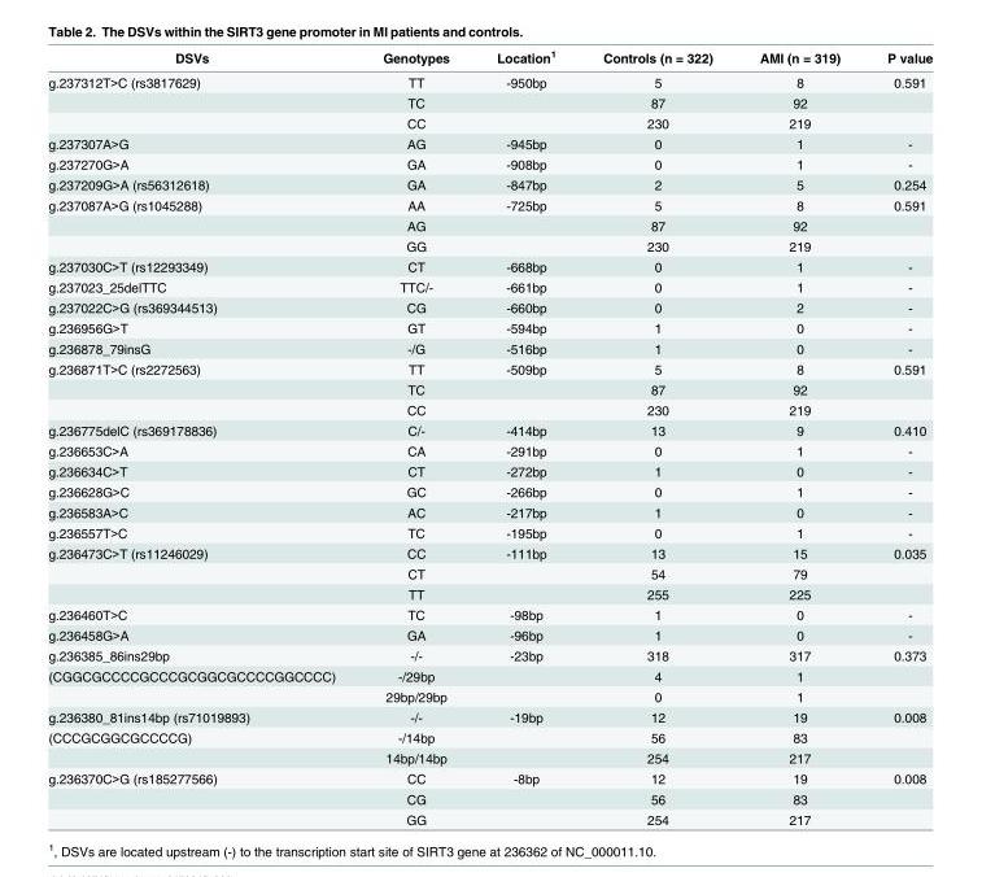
<table><thead><tr><td>DSVs</td><td>Genotypes</td><td>Location<sup>1</sup></td><td>Controls (n = 322)</td><td>AMI (n = 319)</td><td>P value</td></tr></thead><tbody><tr><td rowspan="3">g.237312T&gt;C (rs3817629)</td><td>TT</td><td>-950bp</td><td>5</td><td>8</td><td>0.591</td></tr><tr><td>TC</td><td></td><td>87</td><td>92</td><td></td></tr><tr><td>CC</td><td></td><td>230</td><td>219</td><td></td></tr><tr><td>g.237307A&gt;G</td><td>AG</td><td>-945bp</td><td>0</td><td>1</td><td>-</td></tr><tr><td>g.237270G&gt;A</td><td>GA</td><td>-908bp</td><td>0</td><td>1</td><td>-</td></tr><tr><td>g.237209G&gt;A (rs56312618)</td><td>GA</td><td>-847bp</td><td>2</td><td>5</td><td>0.254</td></tr><tr><td rowspan="3">g.237087A&gt;G (rs1045288)</td><td>AA</td><td>-725bp</td><td>5</td><td>8</td><td>0.591</td></tr><tr><td>AG</td><td></td><td>87</td><td>92</td><td></td></tr><tr><td>GG</td><td></td><td>230</td><td>219</td><td></td></tr><tr><td>g.237030C&gt;T (rs12293349)</td><td>CT</td><td>-668bp</td><td>0</td><td>1</td><td>-</td></tr><tr><td>g.237023_25delTTC</td><td>TTC/-</td><td>-661bp</td><td>0</td><td>1</td><td>-</td></tr><tr><td>g.237022C&gt;G (rs369344513)</td><td>CG</td><td>-660bp</td><td>0</td><td>2</td><td>-</td></tr><tr><td>g.236956G&gt;T</td><td>GT</td><td>-594bp</td><td>1</td><td>0</td><td>-</td></tr><tr><td>g.236878_79insG</td><td>-/G</td><td>-516bp</td><td>1</td><td>0</td><td>-</td></tr><tr><td rowspan="3">g.236871T&gt;C (rs2272563)</td><td>TT</td><td>-509bp</td><td>5</td><td>8</td><td>0.591</td></tr><tr><td>TC</td><td></td><td>87</td><td>92</td><td></td></tr><tr><td>CC</td><td></td><td>230</td><td>219</td><td></td></tr><tr><td>g.236775delC (rs369178836)</td><td>C/-</td><td>-414bp</td><td>13</td><td>9</td><td>0.410</td></tr><tr><td>g.236653C&gt;A</td><td>CA</td><td>-291bp</td><td>0</td><td>1</td><td>-</td></tr><tr><td>g.236634C&gt;T</td><td>CT</td><td>-272bp</td><td>1</td><td>0</td><td>-</td></tr><tr><td>g.236628G&gt;C</td><td>GC</td><td>-266bp</td><td>0</td><td>1</td><td>-</td></tr><tr><td>g.236583A&gt;C</td><td>AC</td><td>-217bp</td><td>1</td><td>0</td><td>-</td></tr><tr><td>g.236557T&gt;C</td><td>TC</td><td>-195bp</td><td>0</td><td>1</td><td>-</td></tr><tr><td rowspan="3">g.236473C&gt;T (rs11246029)</td><td>CC</td><td>-111bp</td><td>13</td><td>15</td><td>0.035</td></tr><tr><td>CT</td><td></td><td>54</td><td>79</td><td></td></tr><tr><td>TT</td><td></td><td>255</td><td>225</td><td></td></tr><tr><td>g.236460T&gt;C</td><td>TC</td><td>-98bp</td><td>1</td><td>0</td><td>-</td></tr><tr><td>g.236458G&gt;A</td><td>GA</td><td>-96bp</td><td>1</td><td>0</td><td>-</td></tr><tr><td>g.236385_86ins29bp</td><td>-/-</td><td>-23bp</td><td>318</td><td>317</td><td>0.373</td></tr><tr><td rowspan="2">(CGGCGCCCCGCCCGCGGCGCCCCGGCCCC)</td><td>-/29bp</td><td></td><td>4</td><td>1</td><td></td></tr><tr><td>29bp/29bp</td><td></td><td>0</td><td>1</td><td></td></tr><tr><td>g.236380_81ins14bp (rs71019893)</td><td>-/-</td><td>-19bp</td><td>12</td><td>19</td><td>0.008</td></tr><tr><td rowspan="2">(CCCGCGGCGCCCCG)</td><td>-/14bp</td><td></td><td>56</td><td>83</td><td></td></tr><tr><td>14bp/14bp</td><td></td><td>254</td><td>217</td><td></td></tr><tr><td rowspan="3">g.236370C&gt;G (rs185277566)</td><td>CC</td><td>-8bp</td><td>12</td><td>19</td><td>0.008</td></tr><tr><td>CG</td><td></td><td>56</td><td>83</td><td></td></tr><tr><td>GG</td><td></td><td>254</td><td>217</td><td></td></tr></tbody></table>